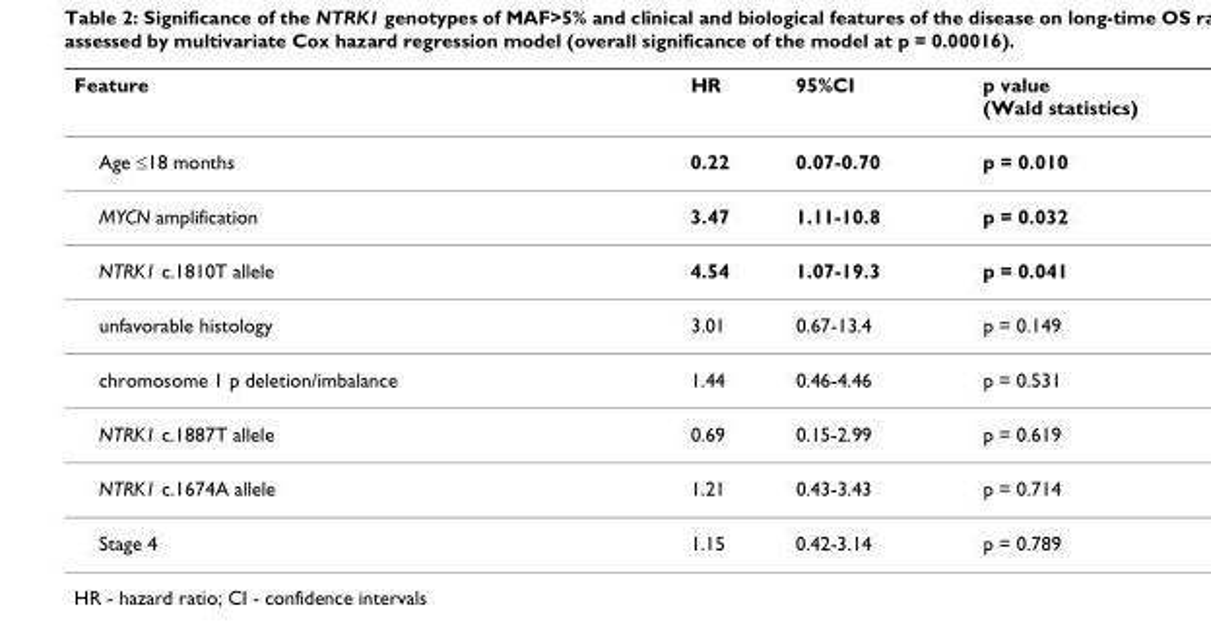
<table><thead><tr><td>Feature</td><td>HR</td><td>95%CI</td><td>p value (Wald statistics)</td></tr></thead><tbody><tr><td>Age ≤18 months</td><td>0.22</td><td>0.07-0.70</td><td>p = 0.010</td></tr><tr><td>MYCN amplification</td><td>3.47</td><td>1.11-10.8</td><td>p = 0.032</td></tr><tr><td>NTRK1 c.1810T allele</td><td>4.54</td><td>1.07-19.3</td><td>p = 0.041</td></tr><tr><td>unfavorable histology</td><td>3.01</td><td>0.67-13.4</td><td>p = 0.149</td></tr><tr><td>chromosome 1 p deletion/imbalance</td><td>1.44</td><td>0.46-4.46</td><td>p = 0.531</td></tr><tr><td>NTRK1 c.1887T allele</td><td>0.69</td><td>0.15-2.99</td><td>p = 0.619</td></tr><tr><td>NTRK1 c.1674A allele</td><td>1.21</td><td>0.43-3.43</td><td>p = 0.714</td></tr><tr><td>Stage 4</td><td>1.15</td><td>0.42-3.14</td><td>p = 0.789</td></tr></tbody></table>